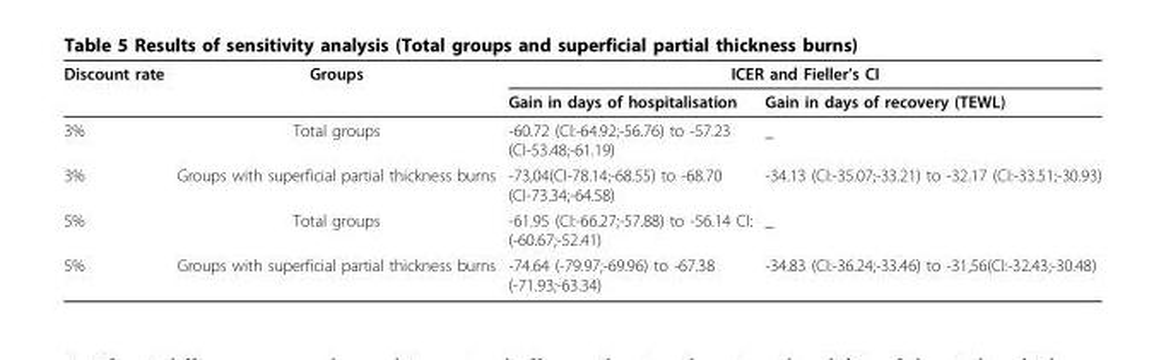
<table><thead><tr><td rowspan="2">Discount rate</td><td rowspan="2">Groups</td><td colspan="2">ICER and Fieller’s CI</td></tr><tr><td>Gain in days of hospitalisation</td><td>Gain in days of recovery (TEWL)</td></tr></thead><tbody><tr><td>3%</td><td>Total groups</td><td>-60.72 (CI:-64.92;-56.76) to -57.23 (CI-53.48;-61.19)</td><td>_</td></tr><tr><td>3%</td><td>Groups with superficial partial thickness burns</td><td>-73,04(CI-78.14;-68.55) to -68.70 (CI-73.34;-64.58)</td><td>-34.13 (CI:-35.07;-33.21) to -32.17 (CI:-33.51;-30.93)</td></tr><tr><td>5%</td><td>Total groups</td><td>-61.95 (CI:-66.27;-57.88) to -56.14 CI: (-60.67;-52.41)</td><td>_</td></tr><tr><td>5%</td><td>Groups with superficial partial thickness burns</td><td>-74.64 (-79.97;-69.96) to -67.38 (-71.93;-63.34)</td><td>-34.83 (CI:-36.24;-33.46) to -31,56(CI:-32.43;-30.48)</td></tr></tbody></table>